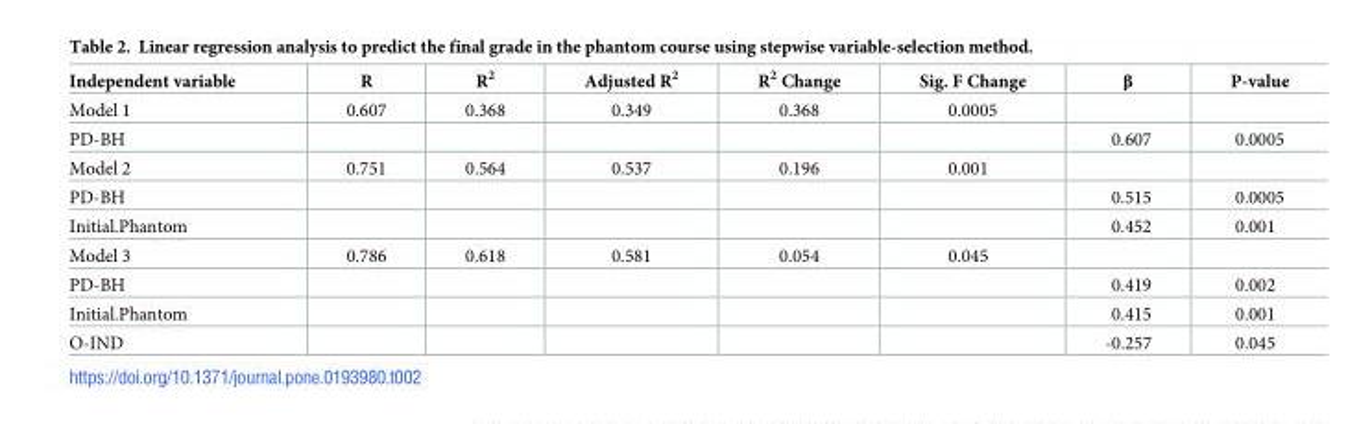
<table><thead><tr><td>Independent variable</td><td>R</td><td>R<sup>2</sup></td><td>Adjusted R<sup>2</sup></td><td>R<sup>2</sup> Change</td><td>Sig. F Change</td><td>β</td><td>P-value</td></tr></thead><tbody><tr><td>Model 1</td><td>0.607</td><td>0.368</td><td>0.349</td><td>0.368</td><td>0.0005</td><td></td><td></td></tr><tr><td>PD-BH</td><td></td><td></td><td></td><td></td><td></td><td>0.607</td><td>0.0005</td></tr><tr><td>Model 2</td><td>0.751</td><td>0.564</td><td>0.537</td><td>0.196</td><td>0.001</td><td></td><td></td></tr><tr><td>PD-BH</td><td></td><td></td><td></td><td></td><td></td><td>0.515</td><td>0.0005</td></tr><tr><td>Initial.Phantom</td><td></td><td></td><td></td><td></td><td></td><td>0.452</td><td>0.001</td></tr><tr><td>Model 3</td><td>0.786</td><td>0.618</td><td>0.581</td><td>0.054</td><td>0.045</td><td></td><td></td></tr><tr><td>PD-BH</td><td></td><td></td><td></td><td></td><td></td><td>0.419</td><td>0.002</td></tr><tr><td>Initial.Phantom</td><td></td><td></td><td></td><td></td><td></td><td>0.415</td><td>0.001</td></tr><tr><td>O-IND</td><td></td><td></td><td></td><td></td><td></td><td>-0.257</td><td>0.045</td></tr></tbody></table>